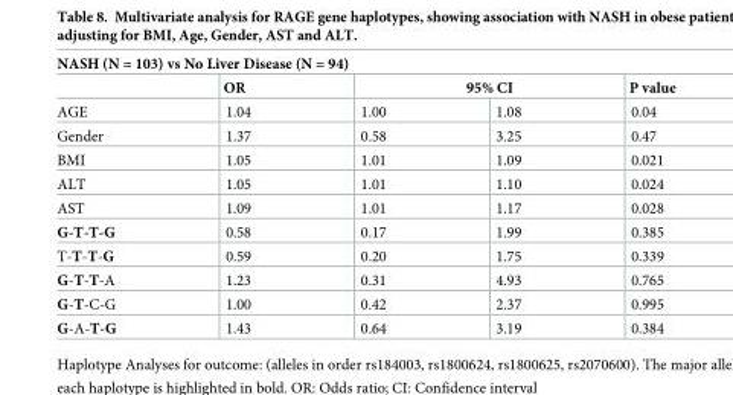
<table><thead><tr><td colspan="5">NASH (N = 103) vs No Liver Disease (N = 94)</td></tr><tr><td rowspan="2">AGE</td><td rowspan="2">OR 1.04</td><td colspan="2">95% CI</td><td rowspan="2">P value 0.04</td></tr><tr><td>1.00</td><td>1.08</td></tr></thead><tbody><tr><td>Gender</td><td>1.37</td><td>0.58</td><td>3.25</td><td>0.47</td></tr><tr><td>BMI</td><td>1.05</td><td>1.01</td><td>1.09</td><td>0.021</td></tr><tr><td>ALT</td><td>1.05</td><td>1.01</td><td>1.10</td><td>0.024</td></tr><tr><td>AST</td><td>1.09</td><td>1.01</td><td>1.17</td><td>0.028</td></tr><tr><td>G-T-T-G</td><td>0.58</td><td>0.17</td><td>1.99</td><td>0.385</td></tr><tr><td>T-T-T-G</td><td>0.59</td><td>0.20</td><td>1.75</td><td>0.339</td></tr><tr><td>G-T-T-A</td><td>1.23</td><td>0.31</td><td>4.93</td><td>0.765</td></tr><tr><td>G-T-C-G</td><td>1.00</td><td>0.42</td><td>2.37</td><td>0.995</td></tr><tr><td>G-A-T-G</td><td>1.43</td><td>0.64</td><td>3.19</td><td>0.384</td></tr></tbody></table>